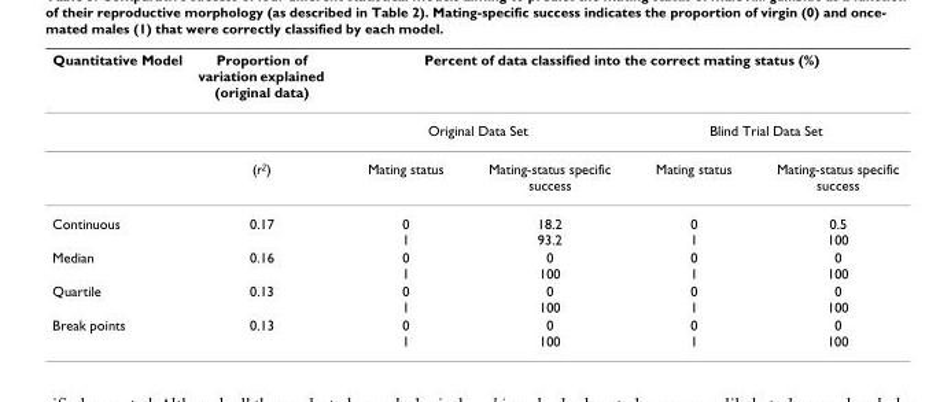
<table><thead><tr><td rowspan="3">Quantitative Model</td><td rowspan="3">Proportion of variation explained (original data) (r<sup>2</sup>)</td><td colspan="4">Percent of data classified into the correct mating status (%)</td></tr><tr><td colspan="2">Original Data Set</td><td colspan="2">Blind Trial Data Set</td></tr><tr><td>Mating status</td><td>Mating-status specific success</td><td>Mating status</td><td>Mating-status specific success</td></tr></thead><tbody><tr><td>Continuous</td><td>0.17</td><td>0 1</td><td>18.2 93.2</td><td>0 1</td><td>0.5 100</td></tr><tr><td>Median</td><td>0.16</td><td>0 1</td><td>0 100</td><td>0 1</td><td>0 100</td></tr><tr><td>Quartile</td><td>0.13</td><td>0 1</td><td>0 100</td><td>0 1</td><td>0 100</td></tr><tr><td>Break points</td><td>0.13</td><td>0 1</td><td>0 100</td><td>0 1</td><td>0 100</td></tr></tbody></table>